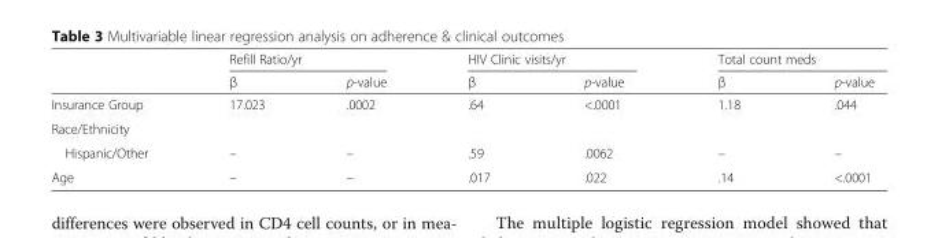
<table><thead><tr><td rowspan="2"></td><td colspan="2">Refill Ratio/yr</td><td colspan="2">HIV Clinic visits/yr</td><td colspan="2">Total count meds</td></tr><tr><td>β</td><td>p-value</td><td>β</td><td>p-value</td><td>β</td><td>p-value</td></tr></thead><tbody><tr><td>Insurance Group</td><td>17.023</td><td>.0002</td><td>.64</td><td>&lt;.0001</td><td>1.18</td><td>.044</td></tr><tr><td colspan="7">Race/Ethnicity</td></tr><tr><td>Hispanic/Other</td><td>–</td><td>–</td><td>.59</td><td>.0062</td><td>–</td><td>–</td></tr><tr><td>Age</td><td>–</td><td>–</td><td>.017</td><td>.022</td><td>.14</td><td>&lt;.0001</td></tr></tbody></table>